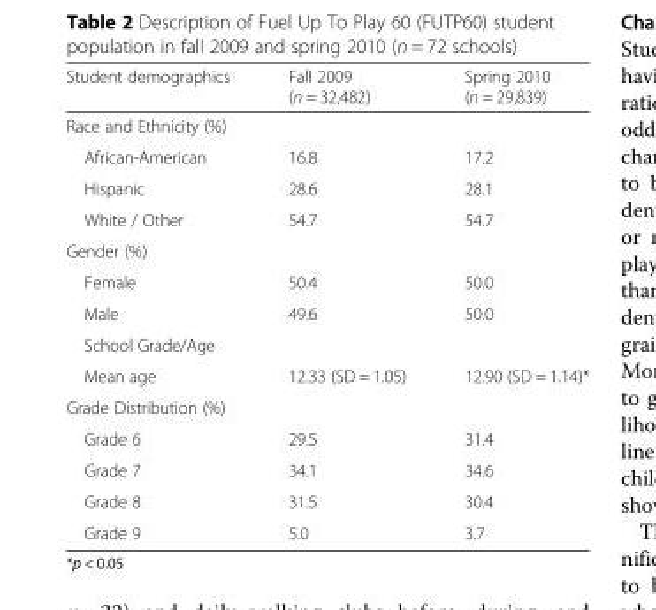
<table><thead><tr><td>Student demographics</td><td>Fall 2009 (n = 32,482)</td><td>Spring 2010 (n = 29,839)</td></tr></thead><tbody><tr><td colspan="3">Race and Ethnicity (%)</td></tr><tr><td>African-American</td><td>16.8</td><td>17.2</td></tr><tr><td>Hispanic</td><td>28.6</td><td>28.1</td></tr><tr><td>White / Other</td><td>54.7</td><td>54.7</td></tr><tr><td colspan="3">Gender (%)</td></tr><tr><td>Female</td><td>50.4</td><td>50.0</td></tr><tr><td>Male</td><td>49.6</td><td>50.0</td></tr><tr><td colspan="3">School Grade/Age</td></tr><tr><td>Mean age</td><td>12.33 (SD = 1.05)</td><td>12.90 (SD = 1.14)*</td></tr><tr><td colspan="3">Grade Distribution (%)</td></tr><tr><td>Grade 6</td><td>29.5</td><td>31.4</td></tr><tr><td>Grade 7</td><td>34.1</td><td>34.6</td></tr><tr><td>Grade 8</td><td>31.5</td><td>30.4</td></tr><tr><td>Grade 9</td><td>5.0</td><td>3.7</td></tr></tbody></table>